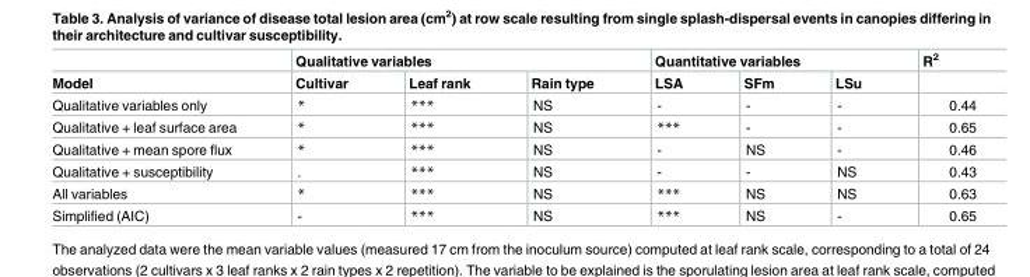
<table><thead><tr><td rowspan="2">Model</td><td colspan="3">Qualitative variables</td><td colspan="3">Quantitative variables</td><td rowspan="2">R<sup>2</sup></td></tr><tr><td>Cultivar</td><td>Leaf rank</td><td>Rain type</td><td>LSA</td><td>SFm</td><td>LSu</td></tr></thead><tbody><tr><td>Qualitative variables only</td><td>*</td><td>***</td><td>NS</td><td>-</td><td>-</td><td>-</td><td>0.44</td></tr><tr><td>Qualitative + leaf surface area</td><td>*</td><td>***</td><td>NS</td><td>***</td><td>-</td><td>-</td><td>0.65</td></tr><tr><td>Qualitative + mean spore flux</td><td>*</td><td>***</td><td>NS</td><td>-</td><td>NS</td><td>-</td><td>0.46</td></tr><tr><td>Qualitative + susceptibility</td><td>.</td><td>***</td><td>NS</td><td>-</td><td>-</td><td>NS</td><td>0.43</td></tr><tr><td>All variables</td><td>*</td><td>***</td><td>NS</td><td>***</td><td>NS</td><td>NS</td><td>0.63</td></tr><tr><td>Simplified (AIC)</td><td>-</td><td>***</td><td>NS</td><td>***</td><td>NS</td><td>-</td><td>0.65</td></tr></tbody></table>